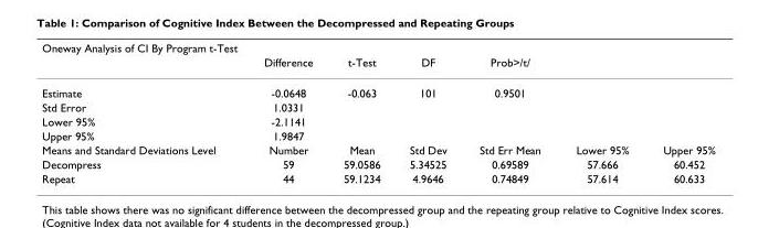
<table><thead><tr><td colspan="7">Oneway Analysis of CI By Program t-Test</td></tr><tr><td></td><td>Difference</td><td>t-Test</td><td>DF</td><td>Prob&gt;/t/</td><td></td><td></td></tr></thead><tbody><tr><td>Estimate</td><td>-0.0648</td><td>-0.063</td><td>101</td><td>0.9501</td><td></td><td></td></tr><tr><td>Std Error</td><td>1.0331</td><td></td><td></td><td></td><td></td><td></td></tr><tr><td>Lower 95%</td><td>-2.1141</td><td></td><td></td><td></td><td></td><td></td></tr><tr><td>Upper 95%</td><td>1.9847</td><td></td><td></td><td></td><td></td><td></td></tr><tr><td>Means and Standard Deviations Level</td><td>Number</td><td>Mean</td><td>Std Dev</td><td>Std Err Mean</td><td>Lower 95%</td><td>Upper 95%</td></tr><tr><td>Decompress</td><td>59</td><td>59.0586</td><td>5.34525</td><td>0.69589</td><td>57.666</td><td>60.452</td></tr><tr><td>Repeat</td><td>44</td><td>59.1234</td><td>4.9646</td><td>0.74849</td><td>57.614</td><td>60.633</td></tr></tbody></table>